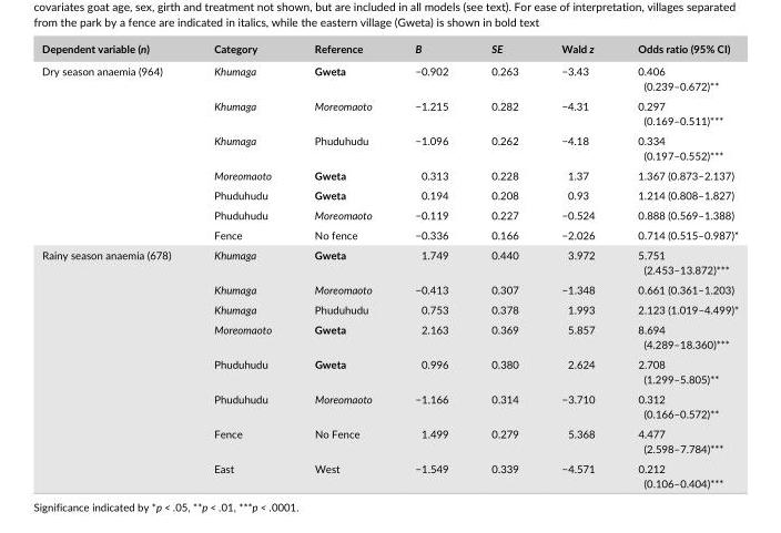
<table><thead><tr><td>Dependent variable (n)</td><td>Category</td><td>Reference</td><td>B</td><td>SE</td><td>Wald z</td><td>Odds ratio (95% CI)</td></tr></thead><tbody><tr><td rowspan="7">Dry season anaemia (964)</td><td>Khumaga</td><td>Gweta</td><td>−0.902</td><td>0.263</td><td>−3.43</td><td>0.406 (0.239–0.672)**</td></tr><tr><td>Khumaga</td><td>Moreomaoto</td><td>−1.215</td><td>0.282</td><td>−4.31</td><td>0.297 (0.169–0.511)***</td></tr><tr><td>Khumaga</td><td>Phuduhudu</td><td>−1.096</td><td>0.262</td><td>−4.18</td><td>0.334 (0.197–0.552)***</td></tr><tr><td>Moreomaoto</td><td>Gweta</td><td>0.313</td><td>0.228</td><td>1.37</td><td>1.367 (0.873–2.137)</td></tr><tr><td>Phuduhudu</td><td>Gweta</td><td>0.194</td><td>0.208</td><td>0.93</td><td>1.214 (0.808–1.827)</td></tr><tr><td>Phuduhudu</td><td>Moreomaoto</td><td>−0.119</td><td>0.227</td><td>−0.524</td><td>0.888 (0.569–1.388)</td></tr><tr><td>Fence</td><td>No fence</td><td>−0.336</td><td>0.166</td><td>−2.026</td><td>0.714 (0.515–0.987)*</td></tr><tr><td rowspan="8">Rainy season anaemia (678)</td><td>Khumaga</td><td>Gweta</td><td>1.749</td><td>0.440</td><td>3.972</td><td>5.751 (2.453–13.872)***</td></tr><tr><td>Khumaga</td><td>Moreomaoto</td><td>−0.413</td><td>0.307</td><td>−1.348</td><td>0.661 (0.361–1.203)</td></tr><tr><td>Khumaga</td><td>Phuduhudu</td><td>0.753</td><td>0.378</td><td>1.993</td><td>2.123 (1.019–4.499)*</td></tr><tr><td>Moreomaoto</td><td>Gweta</td><td>2.163</td><td>0.369</td><td>5.857</td><td>8.694 (4.289–18.360)***</td></tr><tr><td>Phuduhudu</td><td>Gweta</td><td>0.996</td><td>0.380</td><td>2.624</td><td>2.708 (1.299–5.805)**</td></tr><tr><td>Phuduhudu</td><td>Moreomaoto</td><td>−1.166</td><td>0.314</td><td>−3.710</td><td>0.312 (0.166–0.572)**</td></tr><tr><td>Fence</td><td>No Fence</td><td>1.499</td><td>0.279</td><td>5.368</td><td>4.477 (2.598–7.784)***</td></tr><tr><td>East</td><td>West</td><td>−1.549</td><td>0.339</td><td>−4.571</td><td>0.212 (0.106–0.404)***</td></tr></tbody></table>